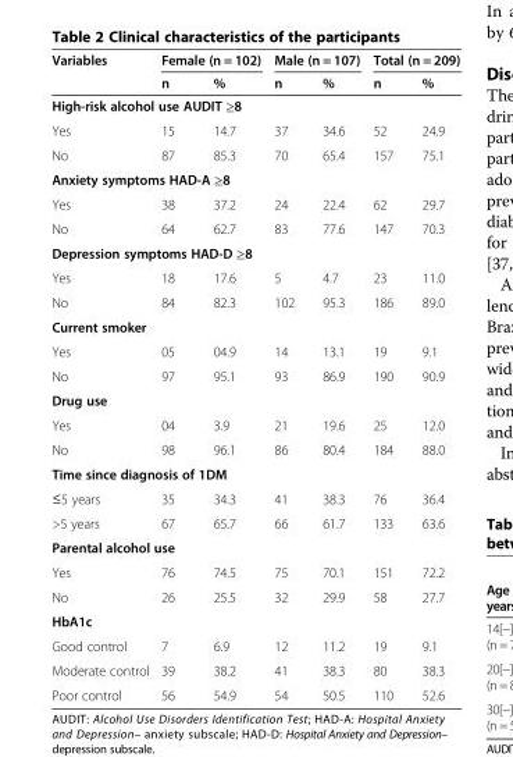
<table><thead><tr><td rowspan="2">Variables</td><td colspan="2">Female (n = 102)</td><td colspan="2">Male (n = 107)</td><td colspan="2">Total (n = 209)</td></tr><tr><td>n</td><td>%</td><td>n</td><td>%</td><td>n</td><td>%</td></tr></thead><tbody><tr><td colspan="7">High-risk alcohol use AUDIT ≥8</td></tr><tr><td>Yes</td><td>15</td><td>14.7</td><td>37</td><td>34.6</td><td>52</td><td>24.9</td></tr><tr><td>No</td><td>87</td><td>85.3</td><td>70</td><td>65.4</td><td>157</td><td>75.1</td></tr><tr><td colspan="7">Anxiety symptoms HAD-A ≥8</td></tr><tr><td>Yes</td><td>38</td><td>37.2</td><td>24</td><td>22.4</td><td>62</td><td>29.7</td></tr><tr><td>No</td><td>64</td><td>62.7</td><td>83</td><td>77.6</td><td>147</td><td>70.3</td></tr><tr><td colspan="7">Depression symptoms HAD-D ≥8</td></tr><tr><td>Yes</td><td>18</td><td>17.6</td><td>5</td><td>4.7</td><td>23</td><td>11.0</td></tr><tr><td>No</td><td>84</td><td>82.3</td><td>102</td><td>95.3</td><td>186</td><td>89.0</td></tr><tr><td colspan="7">Current smoker</td></tr><tr><td>Yes</td><td>05</td><td>04.9</td><td>14</td><td>13.1</td><td>19</td><td>9.1</td></tr><tr><td>No</td><td>97</td><td>95.1</td><td>93</td><td>86.9</td><td>190</td><td>90.9</td></tr><tr><td colspan="7">Drug use</td></tr><tr><td>Yes</td><td>04</td><td>3.9</td><td>21</td><td>19.6</td><td>25</td><td>12.0</td></tr><tr><td>No</td><td>98</td><td>96.1</td><td>86</td><td>80.4</td><td>184</td><td>88.0</td></tr><tr><td colspan="7">Time since diagnosis of 1DM</td></tr><tr><td>≤5 years</td><td>35</td><td>34.3</td><td>41</td><td>38.3</td><td>76</td><td>36.4</td></tr><tr><td>&gt;5 years</td><td>67</td><td>65.7</td><td>66</td><td>61.7</td><td>133</td><td>63.6</td></tr><tr><td colspan="7">Parental alcohol use</td></tr><tr><td>Yes</td><td>76</td><td>74.5</td><td>75</td><td>70.1</td><td>151</td><td>72.2</td></tr><tr><td>No</td><td>26</td><td>25.5</td><td>32</td><td>29.9</td><td>58</td><td>27.7</td></tr><tr><td colspan="7">HbA1c</td></tr><tr><td>Good control</td><td>7</td><td>6.9</td><td>12</td><td>11.2</td><td>19</td><td>9.1</td></tr><tr><td>Moderate control</td><td>39</td><td>38.2</td><td>41</td><td>38.3</td><td>80</td><td>38.3</td></tr><tr><td>Poor control</td><td>56</td><td>54.9</td><td>54</td><td>50.5</td><td>110</td><td>52.6</td></tr></tbody></table>